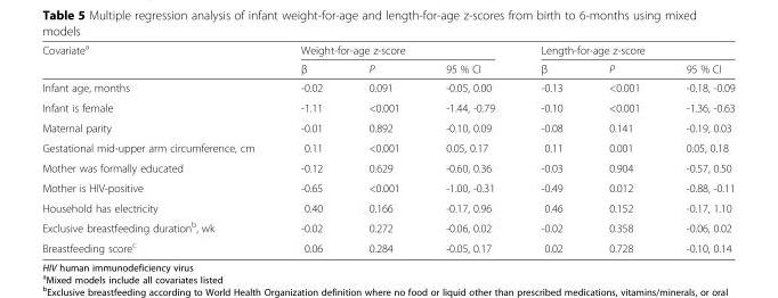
<table><thead><tr><td rowspan="2">Covariate<sup>a</sup></td><td colspan="3">Weight-for-age z-score</td><td colspan="3">Length-for-age z-score</td></tr><tr><td>β</td><td>P</td><td>95 % CI</td><td>β</td><td>P</td><td>95 % CI</td></tr></thead><tbody><tr><td>Infant age, months</td><td>-0.02</td><td>0.091</td><td>-0.05, 0.00</td><td>-0.13</td><td>&lt;0.001</td><td>-0.18, -0.09</td></tr><tr><td>Infant is female</td><td>-1.11</td><td>&lt;0.001</td><td>-1.44, -0.79</td><td>-0.10</td><td>&lt;0.001</td><td>-1.36, -0.63</td></tr><tr><td>Maternal parity</td><td>-0.01</td><td>0.892</td><td>-0.10, 0.09</td><td>-0.08</td><td>0.141</td><td>-0.19, 0.03</td></tr><tr><td>Gestational mid-upper arm circumference, cm</td><td>0.11</td><td>&lt;0.001</td><td>0.05, 0.17</td><td>0.11</td><td>0.001</td><td>0.05, 0.18</td></tr><tr><td>Mother was formally educated</td><td>-0.12</td><td>0.629</td><td>-0.60, 0.36</td><td>-0.03</td><td>0.904</td><td>-0.57, 0.50</td></tr><tr><td>Mother is HIV-positive</td><td>-0.65</td><td>&lt;0.001</td><td>-1.00, -0.31</td><td>-0.49</td><td>0.012</td><td>-0.88, -0.11</td></tr><tr><td>Household has electricity</td><td>0.40</td><td>0.166</td><td>-0.17, 0.96</td><td>0.46</td><td>0.152</td><td>-0.17, 1.10</td></tr><tr><td>Exclusive breastfeeding duration<sup>b</sup>, wk</td><td>-0.02</td><td>0.272</td><td>-0.06, 0.02</td><td>-0.02</td><td>0.358</td><td>-0.06, 0.02</td></tr><tr><td>Breastfeeding score<sup>c</sup></td><td>0.06</td><td>0.284</td><td>-0.05, 0.17</td><td>0.02</td><td>0.728</td><td>-0.10, 0.14</td></tr></tbody></table>